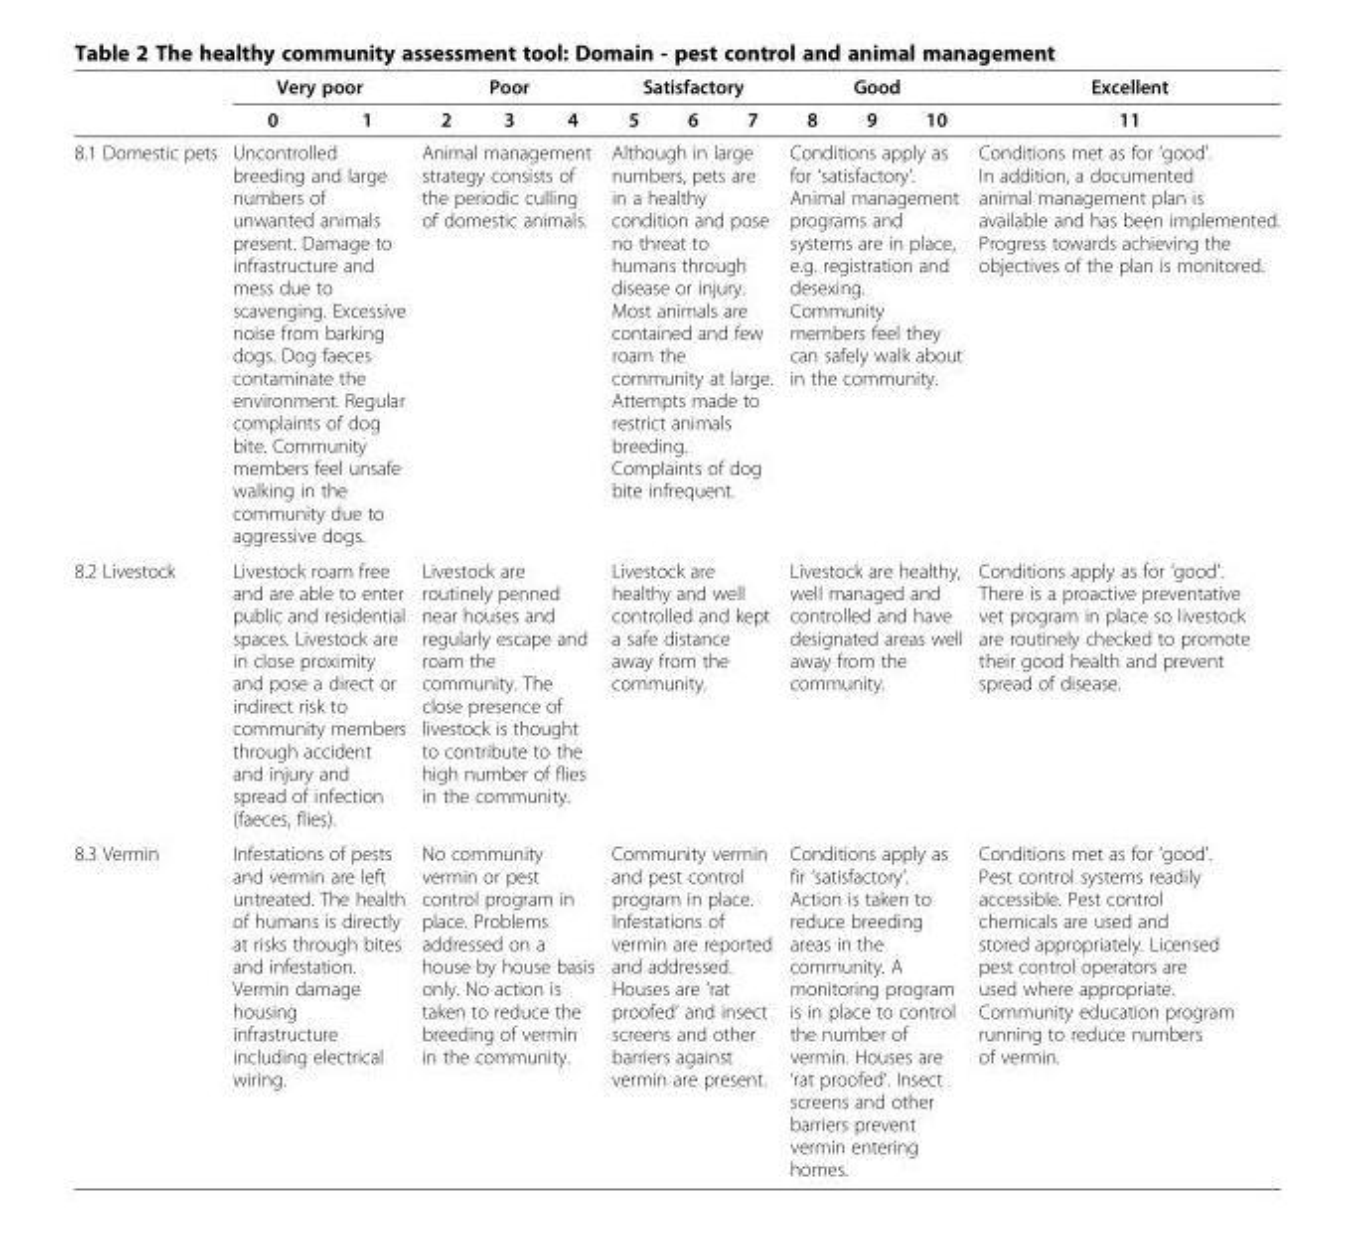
<table><thead><tr><td rowspan="2"></td><td colspan="2">Very poor</td><td colspan="3">Poor</td><td colspan="3">Satisfactory</td><td colspan="3">Good</td><td rowspan="2">Excellent 11</td></tr><tr><td>0</td><td>1</td><td>2</td><td>3</td><td>4</td><td>5</td><td>6</td><td>7</td><td>8</td><td>9</td><td>10</td></tr></thead><tbody><tr><td>8.1 Domestic pets</td><td colspan="2">Uncontrolled breeding and large numbers of unwanted animals present. Damage to infrastructure and mess due to scavenging. Excessive noise from barking dogs. Dog faeces contaminate the environment. Regular complaints of dog bite. Community members feel unsafe walking in the community due to aggressive dogs.</td><td colspan="3">Animal management strategy consists of the periodic culling of domestic animals.</td><td colspan="3">Although in large numbers, pets are in a healthy condition and pose no threat to humans through disease or injury. Most animals are contained and few roam the community at large. Attempts made to restrict animals breeding. Complaints of dog bite infrequent.</td><td colspan="3">Conditions apply as for ‘satisfactory’. Animal management programs and systems are in place, e.g. registration and desexing. Community members feel they can safely walk about in the community.</td><td>Conditions met as for ‘good’. In addition, a documented animal management plan is available and has been implemented. Progress towards achieving the objectives of the plan is monitored.</td></tr><tr><td>8.2 Livestock</td><td colspan="2">Livestock roam free and are able to enter public and residential spaces. Livestock are in close proximity and pose a direct or indirect risk to community members through accident and injury and spread of infection (faeces, flies).</td><td colspan="3">Livestock are routinely penned near houses and regularly escape and roam the community. The close presence of livestock is thought to contribute to the high number of flies in the community.</td><td colspan="3">Livestock are healthy and well controlled and kept a safe distance away from the community.</td><td colspan="3">Livestock are healthy, well managed and controlled and have designated areas well away from the community.</td><td>Conditions apply as for ‘good’. There is a proactive preventative vet program in place so livestock are routinely checked to promote their good health and prevent spread of disease.</td></tr><tr><td>8.3 Vermin</td><td colspan="2">Infestations of pests and vermin are left untreated. The health of humans is directly at risks through bites and infestation. Vermin damage housing infrastructure including electrical wiring.</td><td colspan="3">No community vermin or pest control program in place. Problems addressed on a house by house basis only. No action is taken to reduce the breeding of vermin in the community.</td><td colspan="3">Community vermin and pest control program in place. Infestations of vermin are reported and addressed. Houses are ‘rat proofed’ and insect screens and other barriers against vermin are present.</td><td colspan="3">Conditions apply as fir ‘satisfactory’. Action is taken to reduce breeding areas in the community. A monitoring program is in place to control the number of vermin. Houses are ‘rat proofed’. Insect screens and other barriers prevent vermin entering homes.</td><td>Conditions met as for ‘good’. Pest control systems readily accessible. Pest control chemicals are used and stored appropriately. Licensed pest control operators are used where appropriate. Community education program running to reduce numbers of vermin.</td></tr></tbody></table>